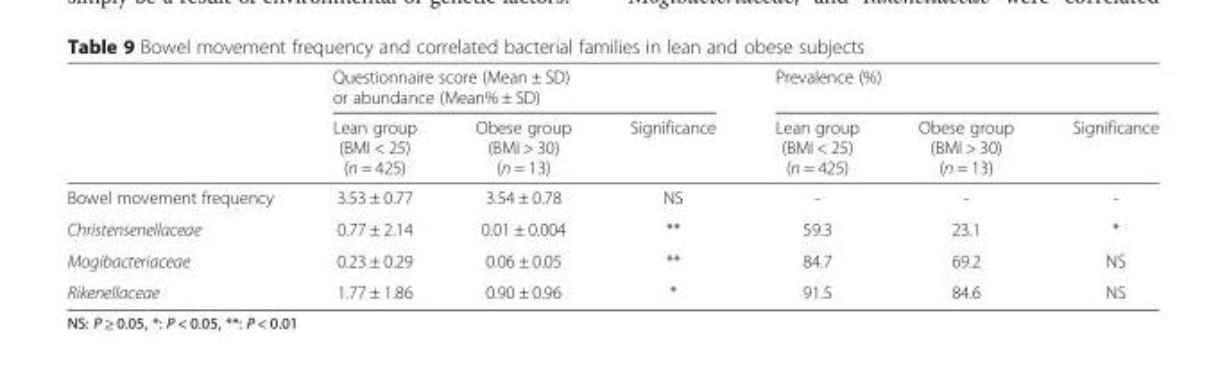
<table><thead><tr><td rowspan="2"></td><td colspan="3">Questionnaire score (Mean ± SD) or abundance (Mean% ± SD)</td><td colspan="3">Prevalence (%)</td></tr><tr><td>Lean group (BMI &lt; 25) (n = 425)</td><td>Obese group (BMI &gt; 30) (n = 13)</td><td>Significance</td><td>Lean group (BMI &lt; 25) (n = 425)</td><td>Obese group (BMI &gt; 30) (n = 13)</td><td>Significance</td></tr></thead><tbody><tr><td>Bowel movement frequency</td><td>3.53 ± 0.77</td><td>3.54 ± 0.78</td><td>NS</td><td>-</td><td>-</td><td>-</td></tr><tr><td>Christensenellaceae</td><td>0.77 ± 2.14</td><td>0.01 ± 0.004</td><td>**</td><td>59.3</td><td>23.1</td><td>*</td></tr><tr><td>Mogibacteriaceae</td><td>0.23 ± 0.29</td><td>0.06 ± 0.05</td><td>**</td><td>84.7</td><td>69.2</td><td>NS</td></tr><tr><td>Rikenellaceae</td><td>1.77 ± 1.86</td><td>0.90 ± 0.96</td><td>*</td><td>91.5</td><td>84.6</td><td>NS</td></tr></tbody></table>